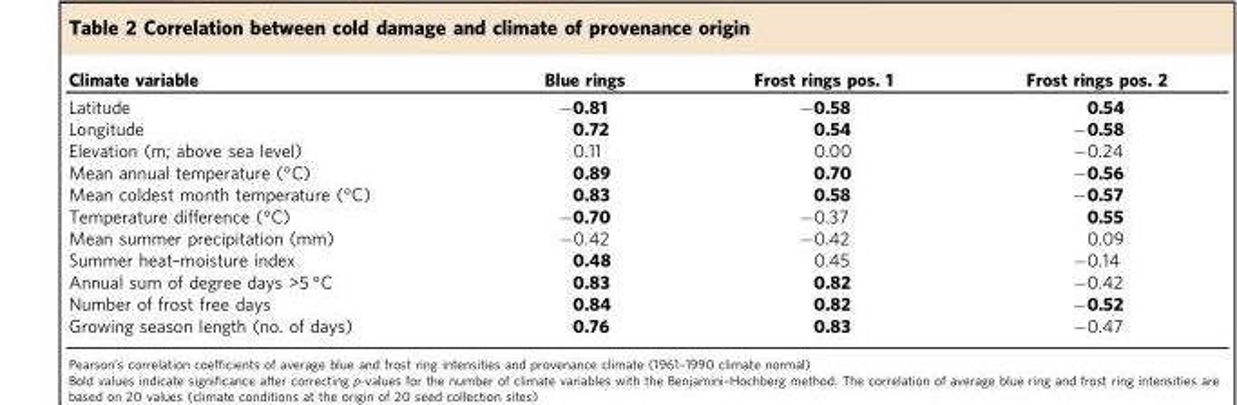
<table><thead><tr><td>Climate variable</td><td>Blue rings</td><td>Frost rings pos. 1</td><td>Frost rings pos. 2</td></tr></thead><tbody><tr><td>Latitude</td><td>−0.81</td><td>−0.58</td><td>0.54</td></tr><tr><td>Longitude</td><td>0.72</td><td>0.54</td><td>−0.58</td></tr><tr><td>Elevation (m; above sea level)</td><td>0.11</td><td>0.00</td><td>−0.24</td></tr><tr><td>Mean annual temperature (°C)</td><td>0.89</td><td>0.70</td><td>−0.56</td></tr><tr><td>Mean coldest month temperature (°C)</td><td>0.83</td><td>0.58</td><td>−0.57</td></tr><tr><td>Temperature difference (°C)</td><td>−0.70</td><td>−0.37</td><td>0.55</td></tr><tr><td>Mean summer precipitation (mm)</td><td>−0.42</td><td>−0.42</td><td>0.09</td></tr><tr><td>Summer heat–moisture index</td><td>0.48</td><td>0.45</td><td>−0.14</td></tr><tr><td>Annual sum of degree days &gt;5 °C</td><td>0.83</td><td>0.82</td><td>−0.42</td></tr><tr><td>Number of frost free days</td><td>0.84</td><td>0.82</td><td>−0.52</td></tr><tr><td>Growing season length (no. of days)</td><td>0.76</td><td>0.83</td><td>−0.47</td></tr></tbody></table>